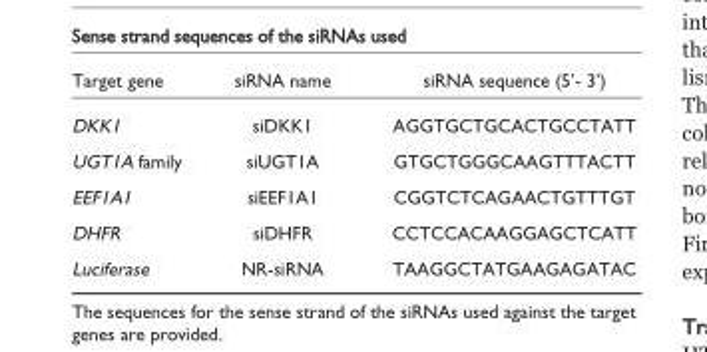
<table><thead><tr><td>Target gene</td><td>siRNA name</td><td>siRNA sequence (5’- 3’)</td></tr></thead><tbody><tr><td>DKK1</td><td>siDKK1</td><td>AGGTGCTGCACTGCCTATT</td></tr><tr><td>UGT1A family</td><td>siUGT1A</td><td>GTGCTGGGCAAGTTTACTT</td></tr><tr><td>EEF1A1</td><td>siEEF1A1</td><td>CGGTCTCAGAACTGTTTGT</td></tr><tr><td>DHFR</td><td>siDHFR</td><td>CCTCCACAAGGAGCTCATT</td></tr><tr><td>Luciferase</td><td>NR-siRNA</td><td>TAAGGCTATGAAGAGATAC</td></tr></tbody></table>